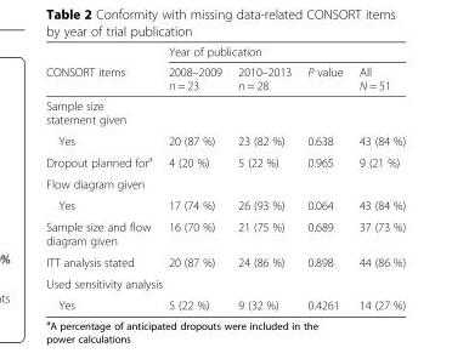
<table><thead><tr><td rowspan="2">CONSORT items</td><td colspan="4">Year of publication</td></tr><tr><td>2008–2009 n = 23</td><td>2010–2013 n = 28</td><td>P value</td><td>All N = 51</td></tr></thead><tbody><tr><td colspan="5">Sample size statement given</td></tr><tr><td>Yes</td><td>20 (87 %)</td><td>23 (82 %)</td><td>0.638</td><td>43 (84 %)</td></tr><tr><td>Dropout planned for<sup>a</sup></td><td>4 (20 %)</td><td>5 (22 %)</td><td>0.965</td><td>9 (21 %)</td></tr><tr><td colspan="5">Flow diagram given</td></tr><tr><td>Yes</td><td>17 (74 %)</td><td>26 (93 %)</td><td>0.064</td><td>43 (84 %)</td></tr><tr><td>Sample size and flow diagram given</td><td>16 (70 %)</td><td>21 (75 %)</td><td>0.689</td><td>37 (73 %)</td></tr><tr><td>ITT analysis stated</td><td>20 (87 %)</td><td>24 (86 %)</td><td>0.898</td><td>44 (86 %)</td></tr><tr><td colspan="5">Used sensitivity analysis</td></tr><tr><td>Yes</td><td>5 (22 %)</td><td>9 (32 %)</td><td>0.4261</td><td>14 (27 %)</td></tr></tbody></table>